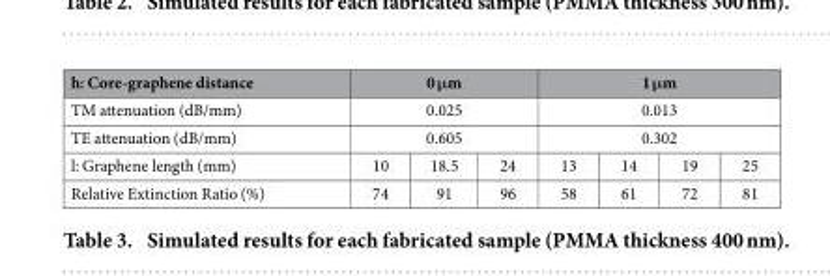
<table><thead><tr><td rowspan="4">h: Core-graphene distance TM attenuation (dB/mm) TE attenuation (dB/mm) l: Graphene length (mm)</td><td rowspan="3" colspan="3">0 μm 0.025 0.605</td><td rowspan="3" colspan="4">1 μm 0.013 0.302</td></tr><tr></tr><tr></tr><tr><td>10</td><td>18.5</td><td>24</td><td>13</td><td>14</td><td>19</td><td>25</td></tr></thead><tbody><tr><td>Relative Extinction Ratio (%)</td><td>74</td><td>91</td><td>96</td><td>58</td><td>61</td><td>72</td><td>81</td></tr></tbody></table>